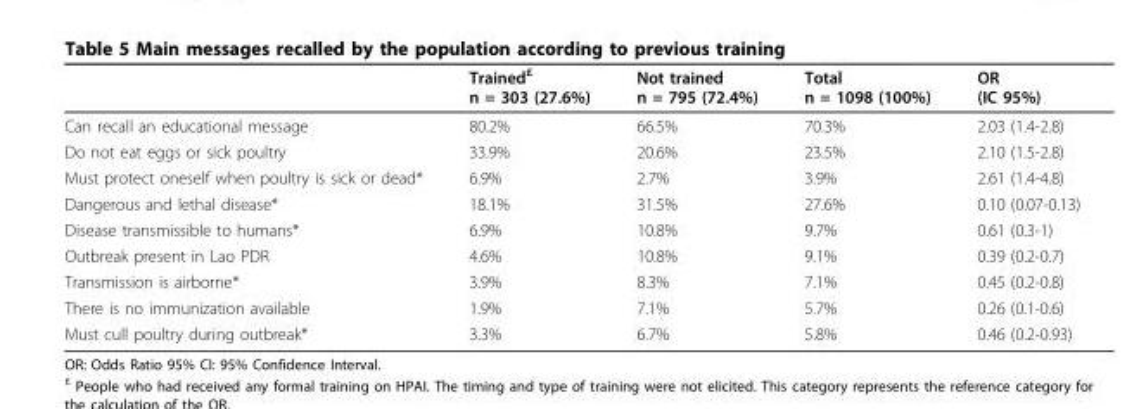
<table><thead><tr><td></td><td>Trained<sup>£</sup> n = 303 (27.6%)</td><td>Not trained n = 795 (72.4%)</td><td>Total n = 1098 (100%)</td><td>OR (IC 95%)</td></tr></thead><tbody><tr><td>Can recall an educational message</td><td>80.2%</td><td>66.5%</td><td>70.3%</td><td>2.03 (1.4-2.8)</td></tr><tr><td>Do not eat eggs or sick poultry</td><td>33.9%</td><td>20.6%</td><td>23.5%</td><td>2.10 (1.5-2.8)</td></tr><tr><td>Must protect oneself when poultry is sick or dead*</td><td>6.9%</td><td>2.7%</td><td>3.9%</td><td>2.61 (1.4-4.8)</td></tr><tr><td>Dangerous and lethal disease*</td><td>18.1%</td><td>31.5%</td><td>27.6%</td><td>0.10 (0.07-0.13)</td></tr><tr><td>Disease transmissible to humans*</td><td>6.9%</td><td>10.8%</td><td>9.7%</td><td>0.61 (0.3-1)</td></tr><tr><td>Outbreak present in Lao PDR</td><td>4.6%</td><td>10.8%</td><td>9.1%</td><td>0.39 (0.2-0.7)</td></tr><tr><td>Transmission is airborne*</td><td>3.9%</td><td>8.3%</td><td>7.1%</td><td>0.45 (0.2-0.8)</td></tr><tr><td>There is no immunization available</td><td>1.9%</td><td>7.1%</td><td>5.7%</td><td>0.26 (0.1-0.6)</td></tr><tr><td>Must cull poultry during outbreak*</td><td>3.3%</td><td>6.7%</td><td>5.8%</td><td>0.46 (0.2-0.93)</td></tr></tbody></table>